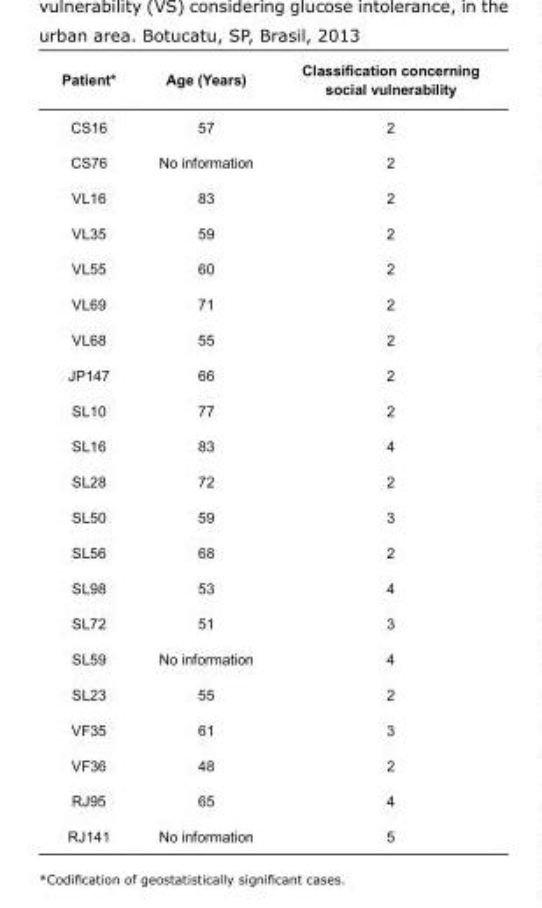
<table><tbody><tr><td>Patient*</td><td>Age (Years)</td><td>Classification concerning social vulnerability</td></tr><tr><td>CS16</td><td>57</td><td>2</td></tr><tr><td>CS76</td><td>No information</td><td>2</td></tr><tr><td>VL16</td><td>83</td><td>2</td></tr><tr><td>VL35</td><td>59</td><td>2</td></tr><tr><td>VL55</td><td>60</td><td>2</td></tr><tr><td>VL69</td><td>71</td><td>2</td></tr><tr><td>VL68</td><td>55</td><td>2</td></tr><tr><td>JP147</td><td>66</td><td>2</td></tr><tr><td>SL10</td><td>77</td><td>2</td></tr><tr><td>SL16</td><td>83</td><td>4</td></tr><tr><td>SL28</td><td>72</td><td>2</td></tr><tr><td>SL50</td><td>59</td><td>3</td></tr><tr><td>SL56</td><td>68</td><td>2</td></tr><tr><td>SL98</td><td>53</td><td>4</td></tr><tr><td>SL72</td><td>51</td><td>3</td></tr><tr><td>SL59</td><td>No information</td><td>4</td></tr><tr><td>SL23</td><td>55</td><td>2</td></tr><tr><td>VF35</td><td>61</td><td>3</td></tr><tr><td>VF36</td><td>48</td><td>2</td></tr><tr><td>RJ95</td><td>65</td><td>4</td></tr><tr><td>RJ141</td><td>No information</td><td>5</td></tr></tbody></table>